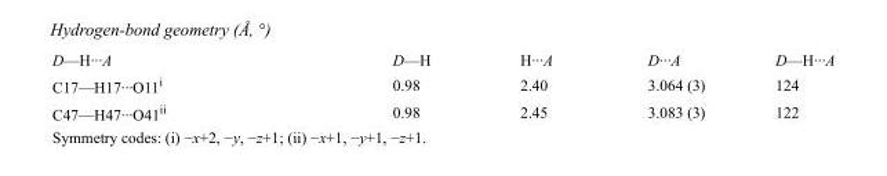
<table><tbody><tr><td>D—H···A</td><td>D—H</td><td>H···A</td><td>D···A</td><td>D—H···A</td></tr><tr><td>C17—H17···O11<sup>i</sup></td><td>0.98</td><td>2.40</td><td>3.064 (3)</td><td>124</td></tr><tr><td>C47—H47···O41<sup>ii</sup></td><td>0.98</td><td>2.45</td><td>3.083 (3)</td><td>122</td></tr></tbody></table>